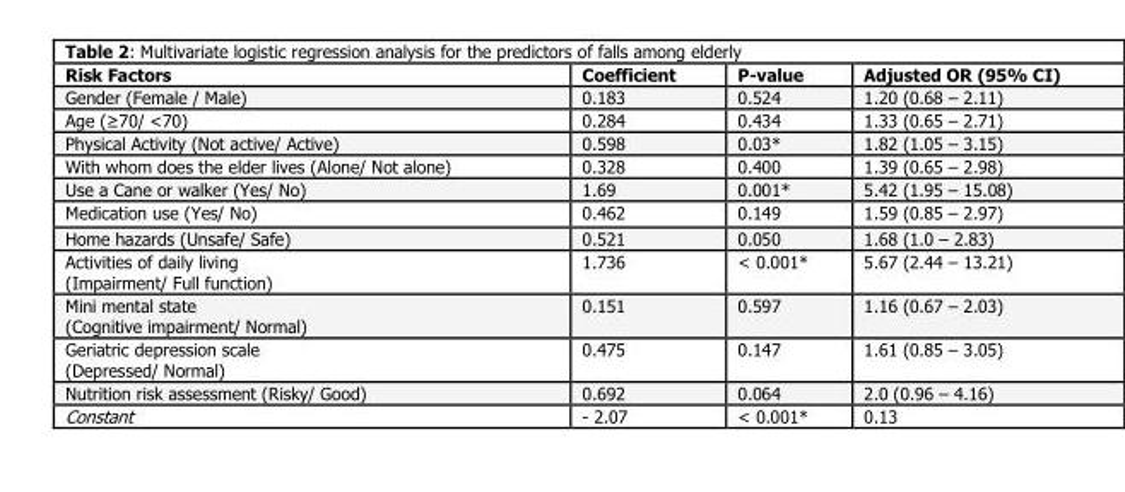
<table><thead><tr><td>Risk Factors</td><td>Coefficient</td><td>P-value</td><td>Adjusted OR (95% CI)</td></tr></thead><tbody><tr><td>Gender (Female / Male)</td><td>0.183</td><td>0.524</td><td>1.20 (0.68 – 2.11)</td></tr><tr><td>Age (≥70/ &lt;70)</td><td>0.284</td><td>0.434</td><td>1.33 (0.65 – 2.71)</td></tr><tr><td>Physical Activity (Not active/ Active)</td><td>0.598</td><td>0.03*</td><td>1.82 (1.05 – 3.15)</td></tr><tr><td>With whom does the elder lives (Alone/ Not alone)</td><td>0.328</td><td>0.400</td><td>1.39 (0.65 – 2.98)</td></tr><tr><td>Use a Cane or walker (Yes/ No)</td><td>1.69</td><td>0.001*</td><td>5.42 (1.95 – 15.08)</td></tr><tr><td>Medication use (Yes/ No)</td><td>0.462</td><td>0.149</td><td>1.59 (0.85 – 2.97)</td></tr><tr><td>Home hazards (Unsafe/ Safe)</td><td>0.521</td><td>0.050</td><td>1.68 (1.0 – 2.83)</td></tr><tr><td>Activities of daily living (Impairment/ Full function)</td><td>1.736</td><td>&lt; 0.001*</td><td>5.67 (2.44 – 13.21)</td></tr><tr><td>Mini mental state (Cognitive impairment/ Normal)</td><td>0.151</td><td>0.597</td><td>1.16 (0.67 – 2.03)</td></tr><tr><td>Geriatric depression scale (Depressed/ Normal)</td><td>0.475</td><td>0.147</td><td>1.61 (0.85 – 3.05)</td></tr><tr><td>Nutrition risk assessment (Risky/ Good)</td><td>0.692</td><td>0.064</td><td>2.0 (0.96 – 4.16)</td></tr><tr><td>Constant</td><td>- 2.07</td><td>&lt; 0.001*</td><td>0.13</td></tr></tbody></table>